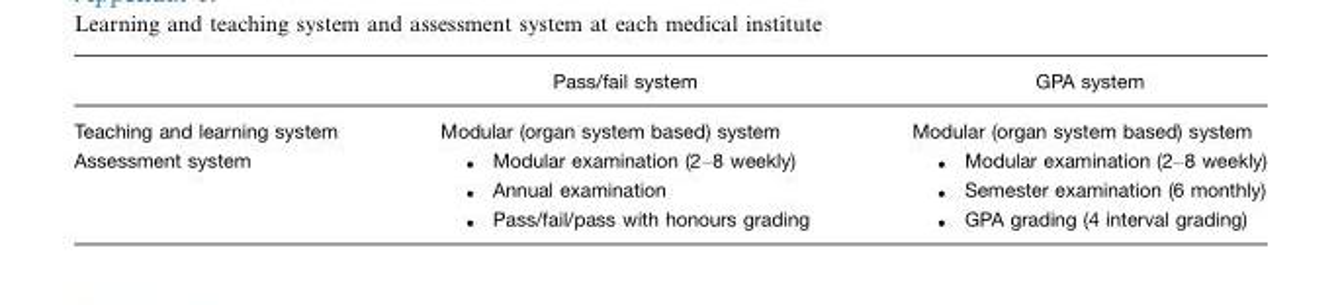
<table><thead><tr><td></td><td>Pass/fail system</td><td>GPA system</td></tr></thead><tbody><tr><td>Teaching and learning system</td><td>Modular (organ system based) system</td><td>Modular (organ system based) system</td></tr><tr><td>Assessment system</td><td>• Modular examination (2–8 weekly) • Annual examination • Pass/fail/pass with honours grading</td><td>• Modular examination (2–8 weekly) • Semester examination (6 monthly) • GPA grading (4 interval grading)</td></tr></tbody></table>